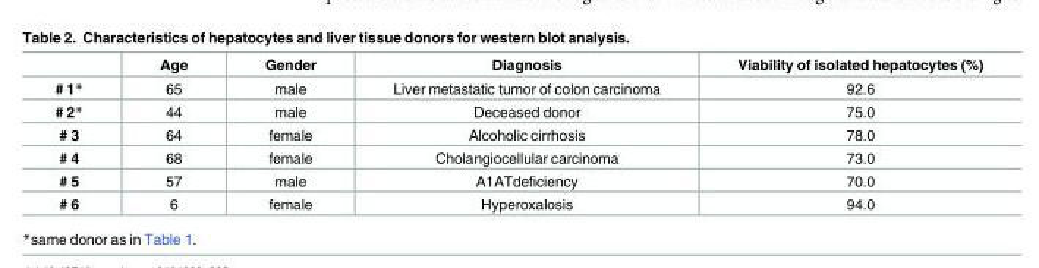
<table><thead><tr><td></td><td>Age</td><td>Gender</td><td>Diagnosis</td><td>Viability of isolated hepatocytes (%)</td></tr></thead><tbody><tr><td># 1*</td><td>65</td><td>male</td><td>Liver metastatic tumor of colon carcinoma</td><td>92.6</td></tr><tr><td># 2*</td><td>44</td><td>male</td><td>Deceased donor</td><td>75.0</td></tr><tr><td># 3</td><td>64</td><td>female</td><td>Alcoholic cirrhosis</td><td>78.0</td></tr><tr><td># 4</td><td>68</td><td>female</td><td>Cholangiocellular carcinoma</td><td>73.0</td></tr><tr><td># 5</td><td>57</td><td>male</td><td>A1ATdeficiency</td><td>70.0</td></tr><tr><td># 6</td><td>6</td><td>female</td><td>Hyperoxalosis</td><td>94.0</td></tr></tbody></table>